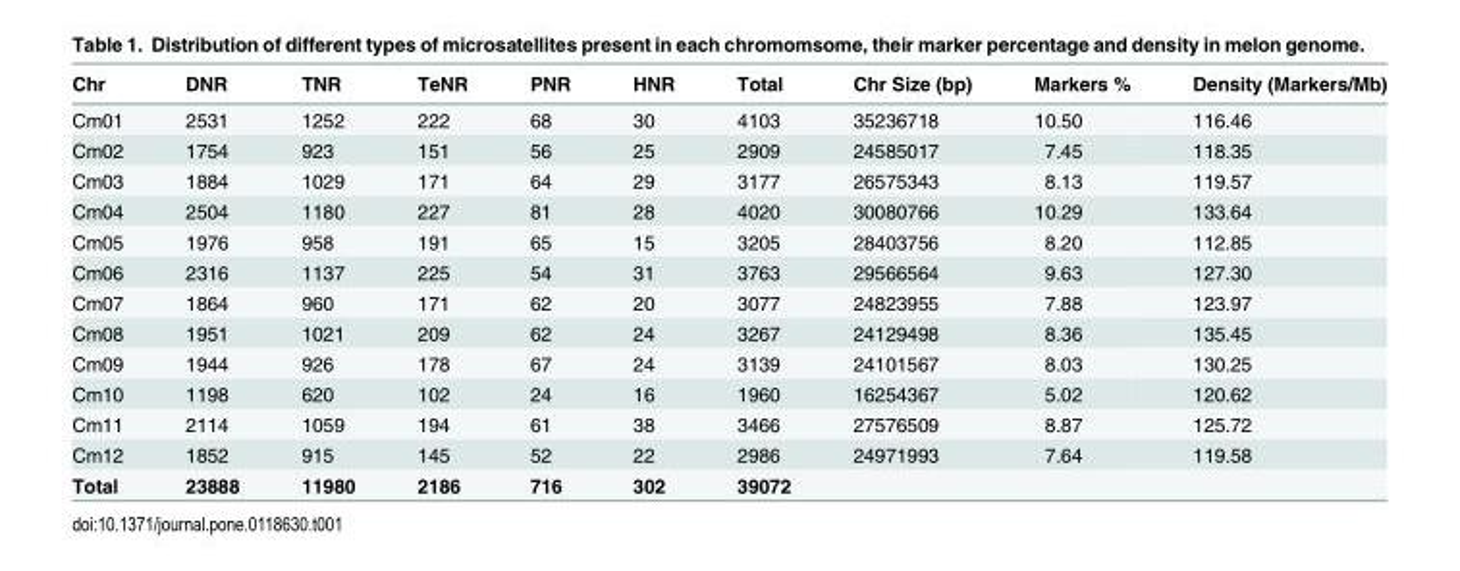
<table><thead><tr><td>Chr</td><td>DNR</td><td>TNR</td><td>TeNR</td><td>PNR</td><td>HNR</td><td>Total</td><td>Chr Size (bp)</td><td>Markers %</td><td>Density (Markers/Mb)</td></tr></thead><tbody><tr><td>Cm01</td><td>2531</td><td>1252</td><td>222</td><td>68</td><td>30</td><td>4103</td><td>35236718</td><td>10.50</td><td>116.46</td></tr><tr><td>Cm02</td><td>1754</td><td>923</td><td>151</td><td>56</td><td>25</td><td>2909</td><td>24585017</td><td>7.45</td><td>118.35</td></tr><tr><td>Cm03</td><td>1884</td><td>1029</td><td>171</td><td>64</td><td>29</td><td>3177</td><td>26575343</td><td>8.13</td><td>119.57</td></tr><tr><td>Cm04</td><td>2504</td><td>1180</td><td>227</td><td>81</td><td>28</td><td>4020</td><td>30080766</td><td>10.29</td><td>133.64</td></tr><tr><td>Cm05</td><td>1976</td><td>958</td><td>191</td><td>65</td><td>15</td><td>3205</td><td>28403756</td><td>8.20</td><td>112.85</td></tr><tr><td>Cm06</td><td>2316</td><td>1137</td><td>225</td><td>54</td><td>31</td><td>3763</td><td>29566564</td><td>9.63</td><td>127.30</td></tr><tr><td>Cm07</td><td>1864</td><td>960</td><td>171</td><td>62</td><td>20</td><td>3077</td><td>24823955</td><td>7.88</td><td>123.97</td></tr><tr><td>Cm08</td><td>1951</td><td>1021</td><td>209</td><td>62</td><td>24</td><td>3267</td><td>24129498</td><td>8.36</td><td>135.45</td></tr><tr><td>Cm09</td><td>1944</td><td>926</td><td>178</td><td>67</td><td>24</td><td>3139</td><td>24101567</td><td>8.03</td><td>130.25</td></tr><tr><td>Cm10</td><td>1198</td><td>620</td><td>102</td><td>24</td><td>16</td><td>1960</td><td>16254367</td><td>5.02</td><td>120.62</td></tr><tr><td>Cm11</td><td>2114</td><td>1059</td><td>194</td><td>61</td><td>38</td><td>3466</td><td>27576509</td><td>8.87</td><td>125.72</td></tr><tr><td>Cm12</td><td>1852</td><td>915</td><td>145</td><td>52</td><td>22</td><td>2986</td><td>24971993</td><td>7.64</td><td>119.58</td></tr><tr><td>Total</td><td>23888</td><td>11980</td><td>2186</td><td>716</td><td>302</td><td>39072</td><td></td><td></td><td></td></tr></tbody></table>